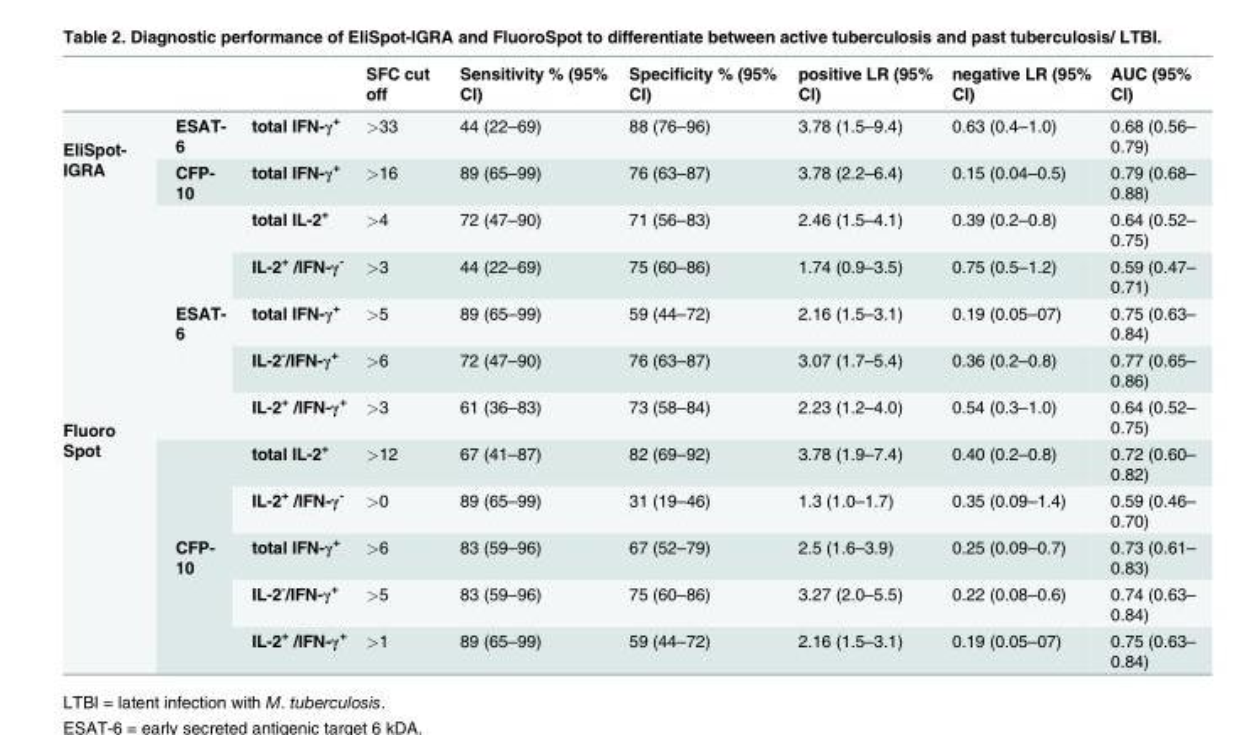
<table><thead><tr><td></td><td></td><td></td><td>SFC cut off</td><td>Sensitivity % (95% CI)</td><td>Specificity % (95% CI)</td><td>positive LR (95% CI)</td><td>negative LR (95% CI)</td><td>AUC (95% CI)</td></tr></thead><tbody><tr><td rowspan="2">EliSpot- IGRA</td><td>ESAT- 6</td><td>total IFN-γ<sup>+</sup></td><td>&gt;33</td><td>44 (22–69)</td><td>88 (76–96)</td><td>3.78 (1.5–9.4)</td><td>0.63 (0.4–1.0)</td><td>0.68 (0.56– 0.79)</td></tr><tr><td>CFP- 10</td><td>total IFN-γ<sup>+</sup></td><td>&gt;16</td><td>89 (65–99)</td><td>76 (63–87)</td><td>3.78 (2.2–6.4)</td><td>0.15 (0.04–0.5)</td><td>0.79 (0.68– 0.88)</td></tr><tr><td rowspan="10">Fluoro Spot</td><td rowspan="5">ESAT- 6</td><td>total IL-2<sup>+</sup></td><td>&gt;4</td><td>72 (47–90)</td><td>71 (56–83)</td><td>2.46 (1.5–4.1)</td><td>0.39 (0.2–0.8)</td><td>0.64 (0.52– 0.75)</td></tr><tr><td>IL-2<sup>+</sup> /IFN-γ<sup>-</sup></td><td>&gt;3</td><td>44 (22–69)</td><td>75 (60–86)</td><td>1.74 (0.9–3.5)</td><td>0.75 (0.5–1.2)</td><td>0.59 (0.47– 0.71)</td></tr><tr><td>total IFN-γ<sup>+</sup></td><td>&gt;5</td><td>89 (65–99)</td><td>59 (44–72)</td><td>2.16 (1.5–3.1)</td><td>0.19 (0.05–07)</td><td>0.75 (0.63– 0.84)</td></tr><tr><td>IL-2<sup>-</sup>/IFN-γ<sup>+</sup></td><td>&gt;6</td><td>72 (47–90)</td><td>76 (63–87)</td><td>3.07 (1.7–5.4)</td><td>0.36 (0.2–0.8)</td><td>0.77 (0.65– 0.86)</td></tr><tr><td>IL-2<sup>+</sup> /IFN-γ<sup>+</sup></td><td>&gt;3</td><td>61 (36–83)</td><td>73 (58–84)</td><td>2.23 (1.2–4.0)</td><td>0.54 (0.3–1.0)</td><td>0.64 (0.52– 0.75)</td></tr><tr><td rowspan="5">CFP- 10</td><td>total IL-2<sup>+</sup></td><td>&gt;12</td><td>67 (41–87)</td><td>82 (69–92)</td><td>3.78 (1.9–7.4)</td><td>0.40 (0.2–0.8)</td><td>0.72 (0.60– 0.82)</td></tr><tr><td>IL-2<sup>+</sup> /IFN-γ<sup>-</sup></td><td>&gt;0</td><td>89 (65–99)</td><td>31 (19–46)</td><td>1.3 (1.0–1.7)</td><td>0.35 (0.09–1.4)</td><td>0.59 (0.46– 0.70)</td></tr><tr><td>total IFN-γ<sup>+</sup></td><td>&gt;6</td><td>83 (59–96)</td><td>67 (52–79)</td><td>2.5 (1.6–3.9)</td><td>0.25 (0.09–0.7)</td><td>0.73 (0.61– 0.83)</td></tr><tr><td>IL-2<sup>-</sup>/IFN-γ<sup>+</sup></td><td>&gt;5</td><td>83 (59–96)</td><td>75 (60–86)</td><td>3.27 (2.0–5.5)</td><td>0.22 (0.08–0.6)</td><td>0.74 (0.63– 0.84)</td></tr><tr><td>IL-2<sup>+</sup> /IFN-γ<sup>+</sup></td><td>&gt;1</td><td>89 (65–99)</td><td>59 (44–72)</td><td>2.16 (1.5–3.1)</td><td>0.19 (0.05–07)</td><td>0.75 (0.63– 0.84)</td></tr></tbody></table>